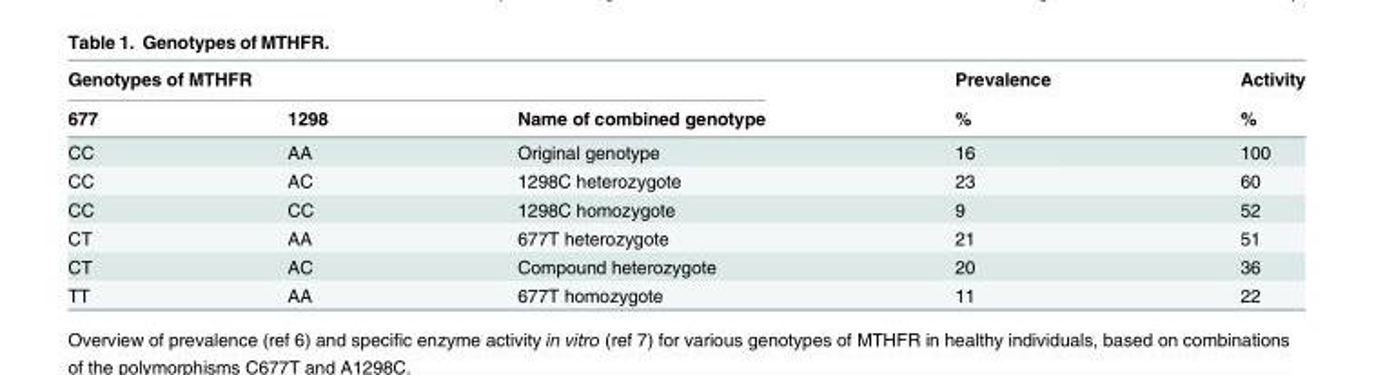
<table><thead><tr><td colspan="3">Genotypes of MTHFR</td><td rowspan="2">Prevalence %</td><td rowspan="2">Activity %</td></tr><tr><td>677</td><td>1298</td><td>Name of combined genotype</td></tr></thead><tbody><tr><td>CC</td><td>AA</td><td>Original genotype</td><td>16</td><td>100</td></tr><tr><td>CC</td><td>AC</td><td>1298C heterozygote</td><td>23</td><td>60</td></tr><tr><td>CC</td><td>CC</td><td>1298C homozygote</td><td>9</td><td>52</td></tr><tr><td>CT</td><td>AA</td><td>677T heterozygote</td><td>21</td><td>51</td></tr><tr><td>CT</td><td>AC</td><td>Compound heterozygote</td><td>20</td><td>36</td></tr><tr><td>TT</td><td>AA</td><td>677T homozygote</td><td>11</td><td>22</td></tr></tbody></table>